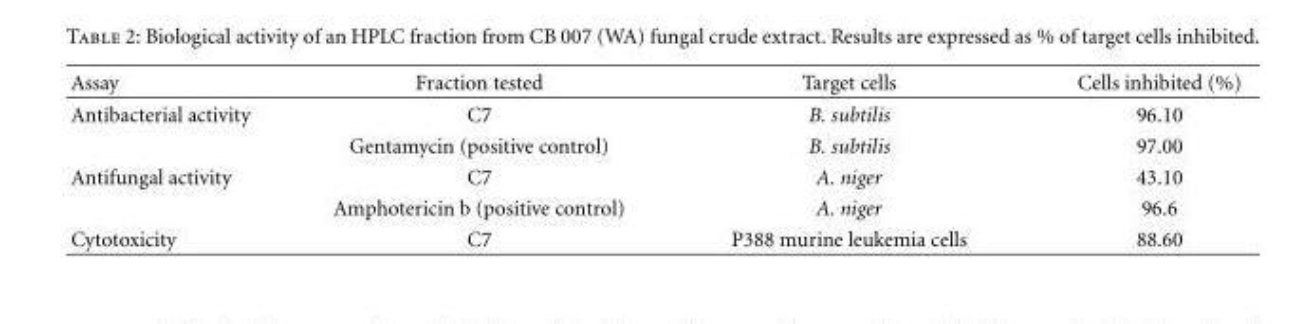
<table><thead><tr><td>Assay</td><td>Fraction tested</td><td>Target cells</td><td>Cells inhibited (%)</td></tr></thead><tbody><tr><td rowspan="2">Antibacterial activity</td><td>C7</td><td>B. subtilis</td><td>96.10</td></tr><tr><td>Gentamycin (positive control)</td><td>B. subtilis</td><td>97.00</td></tr><tr><td rowspan="2">Antifungal activity</td><td>C7</td><td>A. niger</td><td>43.10</td></tr><tr><td>Amphotericin b (positive control)</td><td>A. niger</td><td>96.6</td></tr><tr><td>Cytotoxicity</td><td>C7</td><td>P388 murine leukemia cells</td><td>88.60</td></tr></tbody></table>